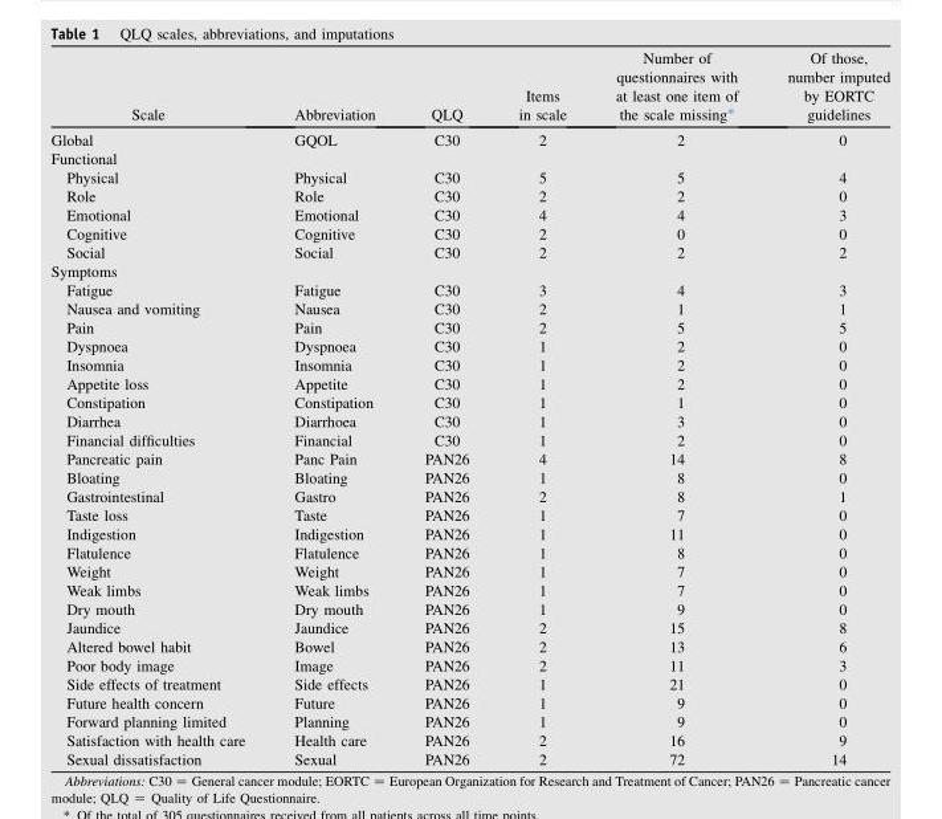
<table><thead><tr><td>Scale</td><td>Abbreviation</td><td>QLQ</td><td>Items in scale</td><td>Number of questionnaires with at least one item of the scale missing*</td><td>Of those, number imputed by EORTC guidelines</td></tr></thead><tbody><tr><td>Global</td><td>GQOL</td><td>C30</td><td>2</td><td>2</td><td>0</td></tr><tr><td colspan="6">Functional</td></tr><tr><td>Physical</td><td>Physical</td><td>C30</td><td>5</td><td>5</td><td>4</td></tr><tr><td>Role</td><td>Role</td><td>C30</td><td>2</td><td>2</td><td>0</td></tr><tr><td>Emotional</td><td>Emotional</td><td>C30</td><td>4</td><td>4</td><td>3</td></tr><tr><td>Cognitive</td><td>Cognitive</td><td>C30</td><td>2</td><td>0</td><td>0</td></tr><tr><td>Social</td><td>Social</td><td>C30</td><td>2</td><td>2</td><td>2</td></tr><tr><td colspan="6">Symptoms</td></tr><tr><td>Fatigue</td><td>Fatigue</td><td>C30</td><td>3</td><td>4</td><td>3</td></tr><tr><td>Nausea and vomiting</td><td>Nausea</td><td>C30</td><td>2</td><td>1</td><td>1</td></tr><tr><td>Pain</td><td>Pain</td><td>C30</td><td>2</td><td>5</td><td>5</td></tr><tr><td>Dyspnoea</td><td>Dyspnoea</td><td>C30</td><td>1</td><td>2</td><td>0</td></tr><tr><td>Insomnia</td><td>Insomnia</td><td>C30</td><td>1</td><td>2</td><td>0</td></tr><tr><td>Appetite loss</td><td>Appetite</td><td>C30</td><td>1</td><td>2</td><td>0</td></tr><tr><td>Constipation</td><td>Constipation</td><td>C30</td><td>1</td><td>1</td><td>0</td></tr><tr><td>Diarrhea</td><td>Diarrhoea</td><td>C30</td><td>1</td><td>3</td><td>0</td></tr><tr><td>Financial difficulties</td><td>Financial</td><td>C30</td><td>1</td><td>2</td><td>0</td></tr><tr><td>Pancreatic pain</td><td>Panc Pain</td><td>PAN26</td><td>4</td><td>14</td><td>8</td></tr><tr><td>Bloating</td><td>Bloating</td><td>PAN26</td><td>1</td><td>8</td><td>0</td></tr><tr><td>Gastrointestinal</td><td>Gastro</td><td>PAN26</td><td>2</td><td>8</td><td>1</td></tr><tr><td>Taste loss</td><td>Taste</td><td>PAN26</td><td>1</td><td>7</td><td>0</td></tr><tr><td>Indigestion</td><td>Indigestion</td><td>PAN26</td><td>1</td><td>11</td><td>0</td></tr><tr><td>Flatulence</td><td>Flatulence</td><td>PAN26</td><td>1</td><td>8</td><td>0</td></tr><tr><td>Weight</td><td>Weight</td><td>PAN26</td><td>1</td><td>7</td><td>0</td></tr><tr><td>Weak limbs</td><td>Weak limbs</td><td>PAN26</td><td>1</td><td>7</td><td>0</td></tr><tr><td>Dry mouth</td><td>Dry mouth</td><td>PAN26</td><td>1</td><td>9</td><td>0</td></tr><tr><td>Jaundice</td><td>Jaundice</td><td>PAN26</td><td>2</td><td>15</td><td>8</td></tr><tr><td>Altered bowel habit</td><td>Bowel</td><td>PAN26</td><td>2</td><td>13</td><td>6</td></tr><tr><td>Poor body image</td><td>Image</td><td>PAN26</td><td>2</td><td>11</td><td>3</td></tr><tr><td>Side effects of treatment</td><td>Side effects</td><td>PAN26</td><td>1</td><td>21</td><td>0</td></tr><tr><td>Future health concern</td><td>Future</td><td>PAN26</td><td>1</td><td>9</td><td>0</td></tr><tr><td>Forward planning limited</td><td>Planning</td><td>PAN26</td><td>1</td><td>9</td><td>0</td></tr><tr><td>Satisfaction with health care</td><td>Health care</td><td>PAN26</td><td>2</td><td>16</td><td>9</td></tr><tr><td>Sexual dissatisfaction</td><td>Sexual</td><td>PAN26</td><td>2</td><td>72</td><td>14</td></tr></tbody></table>